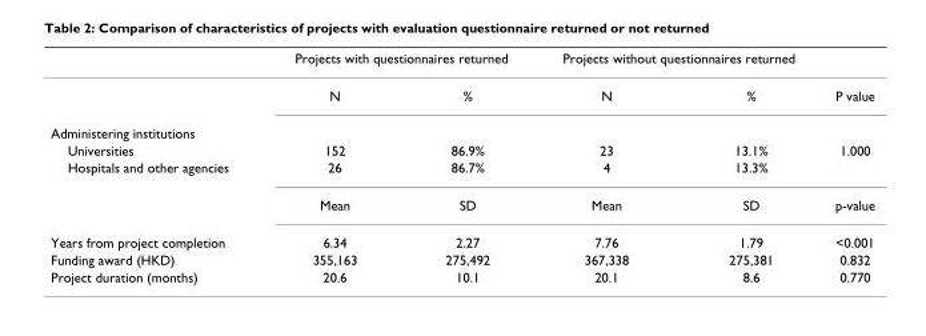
<table><thead><tr><td rowspan="2"></td><td colspan="2">Projects with questionnaires returned</td><td colspan="2">Projects without questionnaires returned</td><td rowspan="2">P value</td></tr><tr><td>N</td><td>%</td><td>N</td><td>%</td></tr></thead><tbody><tr><td colspan="6">Administering institutions</td></tr><tr><td>Universities</td><td>152</td><td>86.9%</td><td>23</td><td>13.1%</td><td>1.000</td></tr><tr><td rowspan="2">Hospitals and other agencies</td><td>26</td><td>86.7%</td><td>4</td><td>13.3%</td><td></td></tr><tr><td>Mean</td><td>SD</td><td>Mean</td><td>SD</td><td>p-value</td></tr><tr><td>Years from project completion</td><td>6.34</td><td>2.27</td><td>7.76</td><td>1.79</td><td>&lt;0.001</td></tr><tr><td>Funding award (HKD)</td><td>355,163</td><td>275,492</td><td>367,338</td><td>275,381</td><td>0.832</td></tr><tr><td>Project duration (months)</td><td>20.6</td><td>10.1</td><td>20.1</td><td>8.6</td><td>0.770</td></tr></tbody></table>